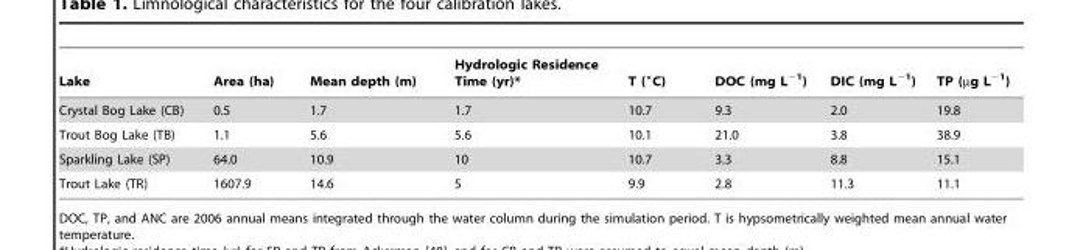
<table><thead><tr><td>Lake</td><td>Area (ha)</td><td>Mean depth (m)</td><td>Hydrologic Residence Time (yr)*</td><td>T (°C)</td><td>DOC (mg L<sup>−1</sup>)</td><td>DIC (mg L<sup>−1</sup>)</td><td>TP (µg L<sup>−1</sup>)</td></tr></thead><tbody><tr><td>Crystal Bog Lake (CB)</td><td>0.5</td><td>1.7</td><td>1.7</td><td>10.7</td><td>9.3</td><td>2.0</td><td>19.8</td></tr><tr><td>Trout Bog Lake (TB)</td><td>1.1</td><td>5.6</td><td>5.6</td><td>10.1</td><td>21.0</td><td>3.8</td><td>38.9</td></tr><tr><td>Sparkling Lake (SP)</td><td>64.0</td><td>10.9</td><td>10</td><td>10.7</td><td>3.3</td><td>8.8</td><td>15.1</td></tr><tr><td>Trout Lake (TR)</td><td>1607.9</td><td>14.6</td><td>5</td><td>9.9</td><td>2.8</td><td>11.3</td><td>11.1</td></tr></tbody></table>